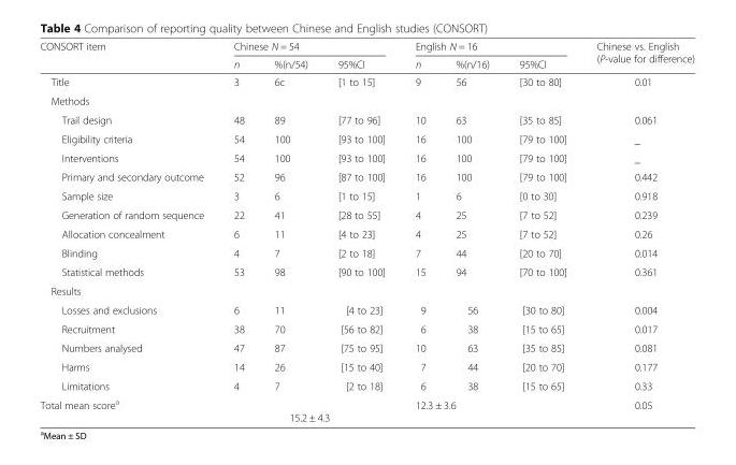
<table><thead><tr><td rowspan="2">CONSORT item</td><td colspan="3">Chinese N = 54</td><td colspan="3">English N = 16</td><td rowspan="2">Chinese vs. English (P-value for difference)</td></tr><tr><td>n</td><td>%(n/54)</td><td>95%CI</td><td>n</td><td>%(n/16)</td><td>95%CI</td></tr></thead><tbody><tr><td>Title</td><td>3</td><td>6c</td><td>[1 to 15]</td><td>9</td><td>56</td><td>[30 to 80]</td><td>0.01</td></tr><tr><td colspan="8">Methods</td></tr><tr><td>Trail design</td><td>48</td><td>89</td><td>[77 to 96]</td><td>10</td><td>63</td><td>[35 to 85]</td><td>0.061</td></tr><tr><td>Eligibility criteria</td><td>54</td><td>100</td><td>[93 to 100]</td><td>16</td><td>100</td><td>[79 to 100]</td><td>_</td></tr><tr><td>Interventions</td><td>54</td><td>100</td><td>[93 to 100]</td><td>16</td><td>100</td><td>[79 to 100]</td><td>_</td></tr><tr><td>Primary and secondary outcome</td><td>52</td><td>96</td><td>[87 to 100]</td><td>16</td><td>100</td><td>[79 to 100]</td><td>0.442</td></tr><tr><td>Sample size</td><td>3</td><td>6</td><td>[1 to 15]</td><td>1</td><td>6</td><td>[0 to 30]</td><td>0.918</td></tr><tr><td>Generation of random sequence</td><td>22</td><td>41</td><td>[28 to 55]</td><td>4</td><td>25</td><td>[7 to 52]</td><td>0.239</td></tr><tr><td>Allocation concealment</td><td>6</td><td>11</td><td>[4 to 23]</td><td>4</td><td>25</td><td>[7 to 52]</td><td>0.26</td></tr><tr><td>Blinding</td><td>4</td><td>7</td><td>[2 to 18]</td><td>7</td><td>44</td><td>[20 to 70]</td><td>0.014</td></tr><tr><td>Statistical methods</td><td>53</td><td>98</td><td>[90 to 100]</td><td>15</td><td>94</td><td>[70 to 100]</td><td>0.361</td></tr><tr><td colspan="8">Results</td></tr><tr><td>Losses and exclusions</td><td>6</td><td>11</td><td>[4 to 23]</td><td>9</td><td>56</td><td>[30 to 80]</td><td>0.004</td></tr><tr><td>Recruitment</td><td>38</td><td>70</td><td>[56 to 82]</td><td>6</td><td>38</td><td>[15 to 65]</td><td>0.017</td></tr><tr><td>Numbers analysed</td><td>47</td><td>87</td><td>[75 to 95]</td><td>10</td><td>63</td><td>[35 to 85]</td><td>0.081</td></tr><tr><td>Harms</td><td>14</td><td>26</td><td>[15 to 40]</td><td>7</td><td>44</td><td>[20 to 70]</td><td>0.177</td></tr><tr><td>Limitations</td><td>4</td><td>7</td><td>[2 to 18]</td><td>6</td><td>38</td><td>[15 to 65]</td><td>0.33</td></tr><tr><td>Total mean score<sup>a</sup></td><td colspan="3">15.2 ± 4.3</td><td colspan="3">12.3 ± 3.6</td><td>0.05</td></tr></tbody></table>